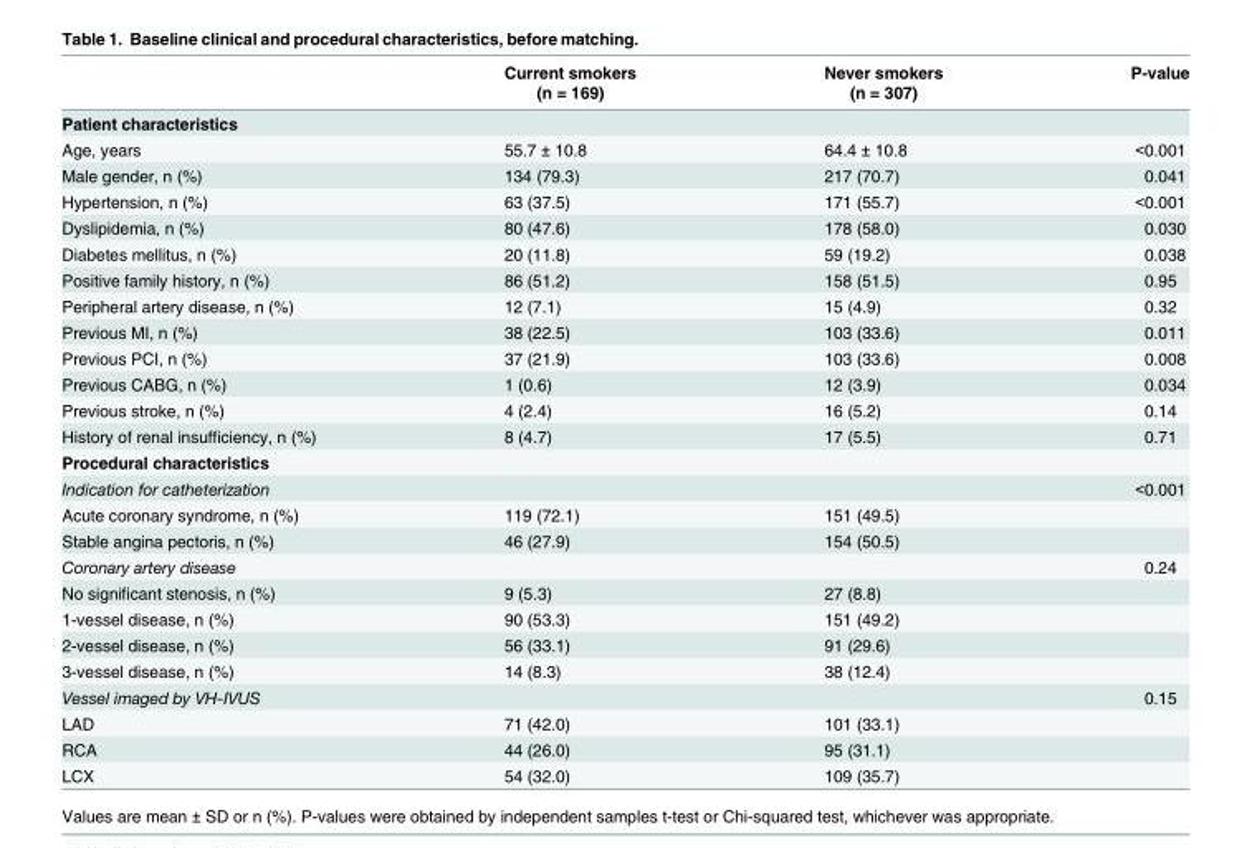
<table><thead><tr><td rowspan="2"></td><td rowspan="2">Current smokers (n = 169)</td><td rowspan="2">Never smokers (n = 307)</td><td rowspan="2">P-value</td></tr><tr></tr></thead><tbody><tr><td colspan="4">Patient characteristics</td></tr><tr><td>Age, years</td><td>55.7 ± 10.8</td><td>64.4 ± 10.8</td><td>&lt;0.001</td></tr><tr><td>Male gender, n (%)</td><td>134 (79.3)</td><td>217 (70.7)</td><td>0.041</td></tr><tr><td>Hypertension, n (%)</td><td>63 (37.5)</td><td>171 (55.7)</td><td>&lt;0.001</td></tr><tr><td>Dyslipidemia, n (%)</td><td>80 (47.6)</td><td>178 (58.0)</td><td>0.030</td></tr><tr><td>Diabetes mellitus, n (%)</td><td>20 (11.8)</td><td>59 (19.2)</td><td>0.038</td></tr><tr><td>Positive family history, n (%)</td><td>86 (51.2)</td><td>158 (51.5)</td><td>0.95</td></tr><tr><td>Peripheral artery disease, n (%)</td><td>12 (7.1)</td><td>15 (4.9)</td><td>0.32</td></tr><tr><td>Previous MI, n (%)</td><td>38 (22.5)</td><td>103 (33.6)</td><td>0.011</td></tr><tr><td>Previous PCI, n (%)</td><td>37 (21.9)</td><td>103 (33.6)</td><td>0.008</td></tr><tr><td>Previous CABG, n (%)</td><td>1 (0.6)</td><td>12 (3.9)</td><td>0.034</td></tr><tr><td>Previous stroke, n (%)</td><td>4 (2.4)</td><td>16 (5.2)</td><td>0.14</td></tr><tr><td>History of renal insufficiency, n (%)</td><td>8 (4.7)</td><td>17 (5.5)</td><td>0.71</td></tr><tr><td colspan="4">Procedural characteristics</td></tr><tr><td>Indication for catheterization</td><td></td><td></td><td>&lt;0.001</td></tr><tr><td>Acute coronary syndrome, n (%)</td><td>119 (72.1)</td><td>151 (49.5)</td><td></td></tr><tr><td>Stable angina pectoris, n (%)</td><td>46 (27.9)</td><td>154 (50.5)</td><td></td></tr><tr><td>Coronary artery disease</td><td></td><td></td><td>0.24</td></tr><tr><td>No significant stenosis, n (%)</td><td>9 (5.3)</td><td>27 (8.8)</td><td></td></tr><tr><td>1-vessel disease, n (%)</td><td>90 (53.3)</td><td>151 (49.2)</td><td></td></tr><tr><td>2-vessel disease, n (%)</td><td>56 (33.1)</td><td>91 (29.6)</td><td></td></tr><tr><td>3-vessel disease, n (%)</td><td>14 (8.3)</td><td>38 (12.4)</td><td></td></tr><tr><td>Vessel imaged by VH-IVUS</td><td></td><td></td><td>0.15</td></tr><tr><td>LAD</td><td>71 (42.0)</td><td>101 (33.1)</td><td></td></tr><tr><td>RCA</td><td>44 (26.0)</td><td>95 (31.1)</td><td></td></tr><tr><td>LCX</td><td>54 (32.0)</td><td>109 (35.7)</td><td></td></tr></tbody></table>